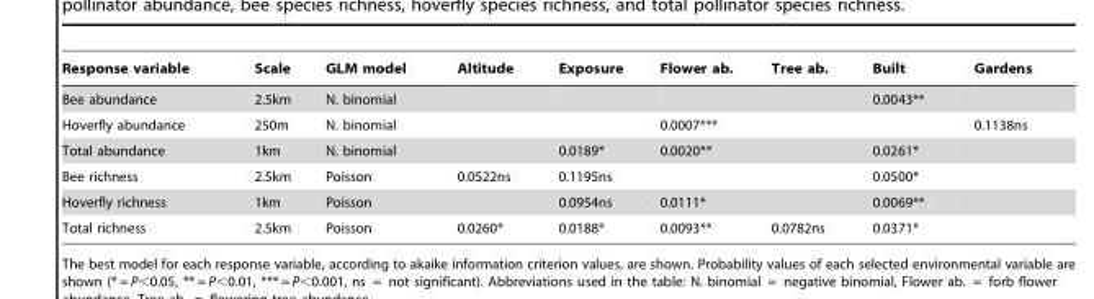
<table><thead><tr><td>Response variable</td><td>Scale</td><td>GLM model</td><td>Altitude</td><td>Exposure</td><td>Flower ab.</td><td>Tree ab.</td><td>Built</td><td>Gardens</td></tr></thead><tbody><tr><td>Bee abundance</td><td>2.5km</td><td>N. binomial</td><td></td><td></td><td></td><td></td><td>0.0043**</td><td></td></tr><tr><td>Hoverfly abundance</td><td>250m</td><td>N. binomial</td><td></td><td></td><td>0.0007***</td><td></td><td></td><td>0.1138ns</td></tr><tr><td>Total abundance</td><td>1km</td><td>N. binomial</td><td></td><td>0.0189*</td><td>0.0020**</td><td></td><td>0.0261*</td><td></td></tr><tr><td>Bee richness</td><td>2.5km</td><td>Poisson</td><td>0.0522ns</td><td>0.1195ns</td><td></td><td></td><td>0.0500*</td><td></td></tr><tr><td>Hoverfly richness</td><td>1km</td><td>Poisson</td><td></td><td>0.0954ns</td><td>0.0111*</td><td></td><td>0.0069**</td><td></td></tr><tr><td>Total richness</td><td>2.5km</td><td>Poisson</td><td>0.0260*</td><td>0.0188*</td><td>0.0093**</td><td>0.0782ns</td><td>0.0371*</td><td></td></tr></tbody></table>